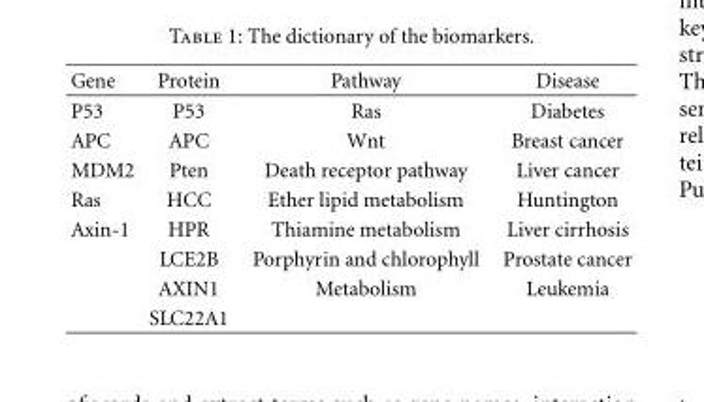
<table><thead><tr><td>Gene</td><td>Protein</td><td>Pathway</td><td>Disease</td></tr></thead><tbody><tr><td>P53</td><td>P53</td><td>Ras</td><td>Diabetes</td></tr><tr><td>APC</td><td>APC</td><td>Wnt</td><td>Breast cancer</td></tr><tr><td>MDM2</td><td>Pten</td><td>Death receptor pathway</td><td>Liver cancer</td></tr><tr><td>Ras</td><td>HCC</td><td>Ether lipid metabolism</td><td>Huntington</td></tr><tr><td rowspan="4">Axin-1</td><td>HPR</td><td>Thiamine metabolism</td><td>Liver cirrhosis</td></tr><tr><td>LCE2B</td><td>Porphyrin and chlorophyll</td><td>Prostate cancer</td></tr><tr><td>AXIN1</td><td>Metabolism</td><td>Leukemia</td></tr><tr><td>SLC22A1</td><td></td><td></td></tr></tbody></table>